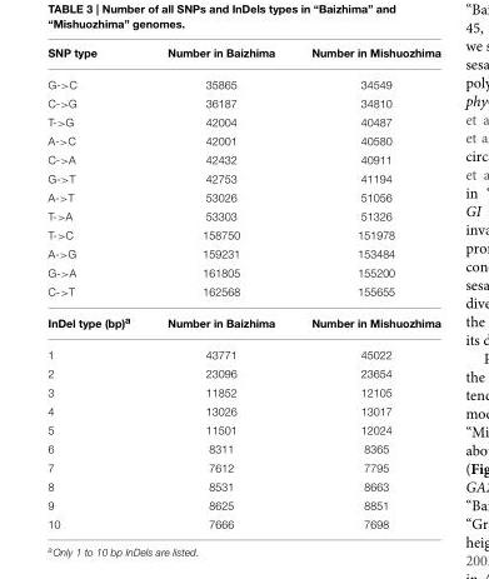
<table><thead><tr><td>SNP type</td><td>Number in Baizhima</td><td>Number in Mishuozhima</td></tr></thead><tbody><tr><td>G-&gt;C</td><td>35865</td><td>34549</td></tr><tr><td>C-&gt;G</td><td>36187</td><td>34810</td></tr><tr><td>T-&gt;G</td><td>42004</td><td>40487</td></tr><tr><td>A-&gt;C</td><td>42001</td><td>40580</td></tr><tr><td>C-&gt;A</td><td>42432</td><td>40911</td></tr><tr><td>G-&gt;T</td><td>42753</td><td>41194</td></tr><tr><td>A-&gt;T</td><td>53026</td><td>51056</td></tr><tr><td>T-&gt;A</td><td>53303</td><td>51326</td></tr><tr><td>T-&gt;C</td><td>158750</td><td>151978</td></tr><tr><td>A-&gt;G</td><td>159231</td><td>153484</td></tr><tr><td>G-&gt;A</td><td>161805</td><td>155200</td></tr><tr><td>C-&gt;T</td><td>162568</td><td>155655</td></tr><tr><td>InDel type (bp)<sup>a</sup></td><td>Number in Baizhima</td><td>Number in Mishuozhima</td></tr><tr><td>1</td><td>43771</td><td>45022</td></tr><tr><td>2</td><td>23096</td><td>23654</td></tr><tr><td>3</td><td>11852</td><td>12105</td></tr><tr><td>4</td><td>13026</td><td>13017</td></tr><tr><td>5</td><td>11501</td><td>12024</td></tr><tr><td>6</td><td>8311</td><td>8365</td></tr><tr><td>7</td><td>7612</td><td>7795</td></tr><tr><td>8</td><td>8531</td><td>8663</td></tr><tr><td>9</td><td>8625</td><td>8851</td></tr><tr><td>10</td><td>7666</td><td>7698</td></tr></tbody></table>